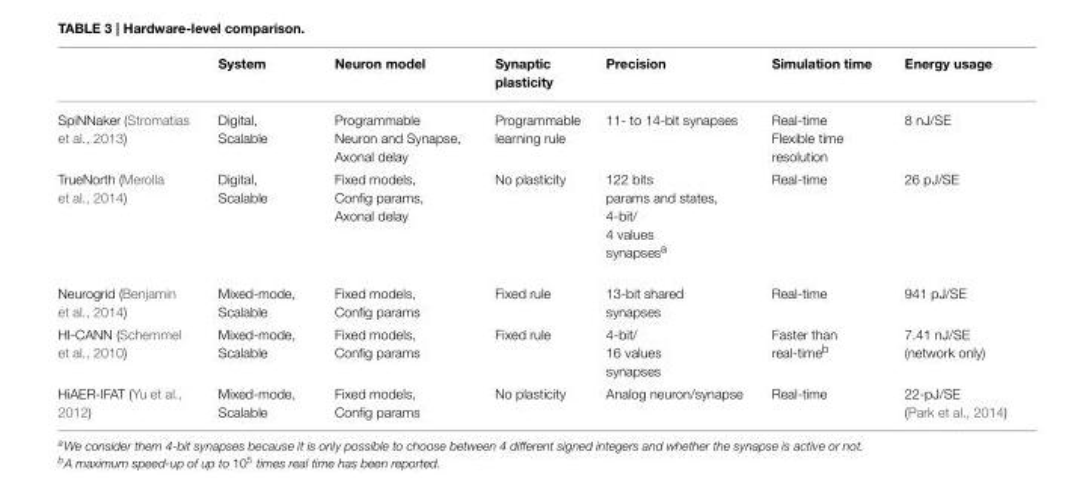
<table><thead><tr><td></td><td>System</td><td>Neuron model</td><td>Synaptic plasticity</td><td>Precision</td><td>Simulation time</td><td>Energy usage</td></tr></thead><tbody><tr><td>SpiNNaker (Stromatias et al., 2013)</td><td>Digital, Scalable</td><td>Programmable Neuron and Synapse, Axonal delay</td><td>Programmable learning rule</td><td>11- to 14-bit synapses</td><td>Real-time Flexible time resolution</td><td>8 nJ/SE</td></tr><tr><td>TrueNorth (Merolla et al., 2014)</td><td>Digital, Scalable</td><td>Fixed models, Config params, Axonal delay</td><td>No plasticity</td><td>122 bits params and states, 4-bit/ 4 values synapsesa</td><td>Real-time</td><td>26 pJ/SE</td></tr><tr><td>Neurogrid (Benjamin et al., 2014)</td><td>Mixed-mode, Scalable</td><td>Fixed models, Config params</td><td>Fixed rule</td><td>13-bit shared synapses</td><td>Real-time</td><td>941 pJ/SE</td></tr><tr><td>HI-CANN (Schemmel et al., 2010)</td><td>Mixed-mode, Scalable</td><td>Fixed models, Config params</td><td>Fixed rule</td><td>4-bit/ 16 values synapses</td><td>Faster than real-time<sup>b</sup></td><td>7.41 nJ/SE (network only)</td></tr><tr><td>HiAER-IFAT (Yu et al., 2012)</td><td>Mixed-mode, Scalable</td><td>Fixed models, Config params</td><td>No plasticity</td><td>Analog neuron/synapse</td><td>Real-time</td><td>22-pJ/SE (Park et al., 2014)</td></tr></tbody></table>